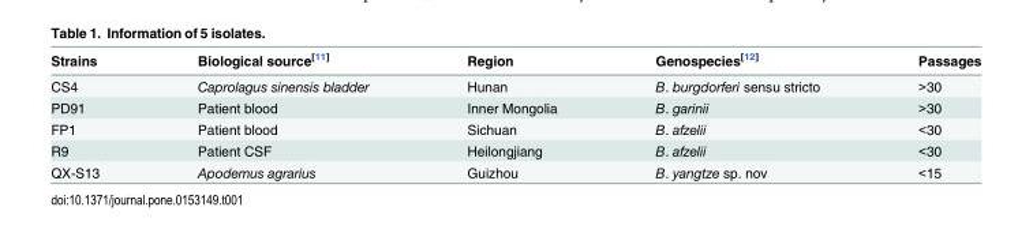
<table><thead><tr><td>Strains</td><td>Biological source<sup>[11]</sup></td><td>Region</td><td>Genospecies<sup>[12]</sup></td><td>Passages</td></tr></thead><tbody><tr><td>CS4</td><td>Caprolagus sinensis bladder</td><td>Hunan</td><td>B. burgdorferi sensu stricto</td><td>&gt;30</td></tr><tr><td>PD91</td><td>Patient blood</td><td>Inner Mongolia</td><td>B. garinii</td><td>&gt;30</td></tr><tr><td>FP1</td><td>Patient blood</td><td>Sichuan</td><td>B. afzelii</td><td>&lt;30</td></tr><tr><td>R9</td><td>Patient CSF</td><td>Heilongjiang</td><td>B. afzelii</td><td>&lt;30</td></tr><tr><td>QX-S13</td><td>Apodemus agrarius</td><td>Guizhou</td><td>B. yangtze sp. nov</td><td>&lt;15</td></tr></tbody></table>